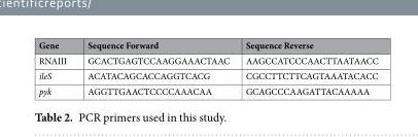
<table><thead><tr><td>Gene</td><td>Sequence Forward</td><td>Sequence Reverse</td></tr></thead><tbody><tr><td>RNAIII</td><td>GCACTGAGTCCAAGGAAACTAAC</td><td>AAGCCATCCCAACTTAATAACC</td></tr><tr><td>ileS</td><td>ACATACAGCACCAGGTCACG</td><td>CGCCTTCTTCAGTAAATACACC</td></tr><tr><td>pyk</td><td>AGGTTGAACTCCCCAAACAA</td><td>GCAGCCCAAGATTACAAAAA</td></tr></tbody></table>